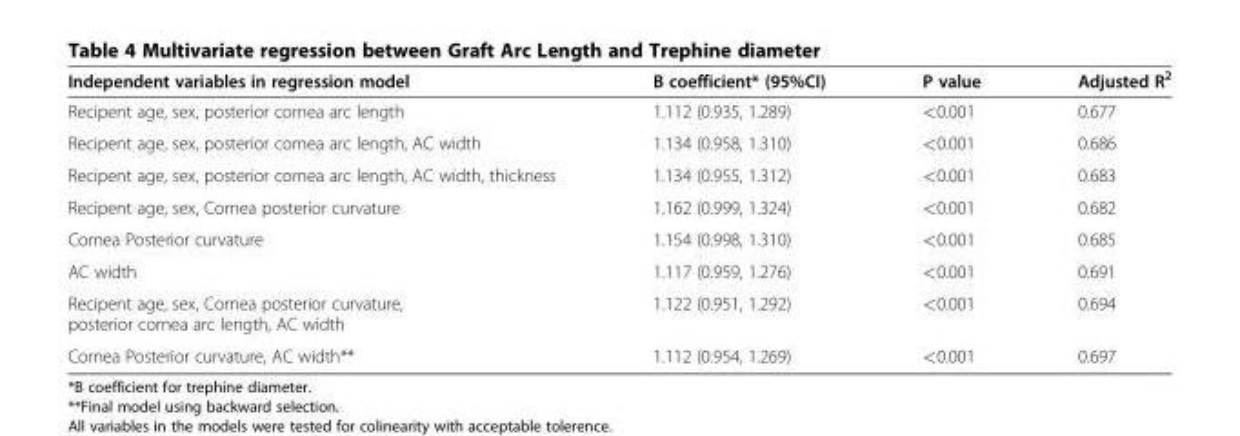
<table><thead><tr><td>Independent variables in regression model</td><td>B coefficient* (95%CI)</td><td>P value</td><td>Adjusted R<sup>2</sup></td></tr></thead><tbody><tr><td>Recipent age, sex, posterior cornea arc length</td><td>1.112 (0.935, 1.289)</td><td>&lt;0.001</td><td>0.677</td></tr><tr><td>Recipent age, sex, posterior cornea arc length, AC width</td><td>1.134 (0.958, 1.310)</td><td>&lt;0.001</td><td>0.686</td></tr><tr><td>Recipent age, sex, posterior cornea arc length, AC width, thickness</td><td>1.134 (0.955, 1.312)</td><td>&lt;0.001</td><td>0.683</td></tr><tr><td>Recipent age, sex, Cornea posterior curvature</td><td>1.162 (0.999, 1.324)</td><td>&lt;0.001</td><td>0.682</td></tr><tr><td>Cornea Posterior curvature</td><td>1.154 (0.998, 1.310)</td><td>&lt;0.001</td><td>0.685</td></tr><tr><td>AC width</td><td>1.117 (0.959, 1.276)</td><td>&lt;0.001</td><td>0.691</td></tr><tr><td>Recipent age, sex, Cornea posterior curvature, posterior cornea arc length, AC width</td><td>1.122 (0.951, 1.292)</td><td>&lt;0.001</td><td>0.694</td></tr><tr><td>Cornea Posterior curvature, AC width**</td><td>1.112 (0.954, 1.269)</td><td>&lt;0.001</td><td>0.697</td></tr></tbody></table>